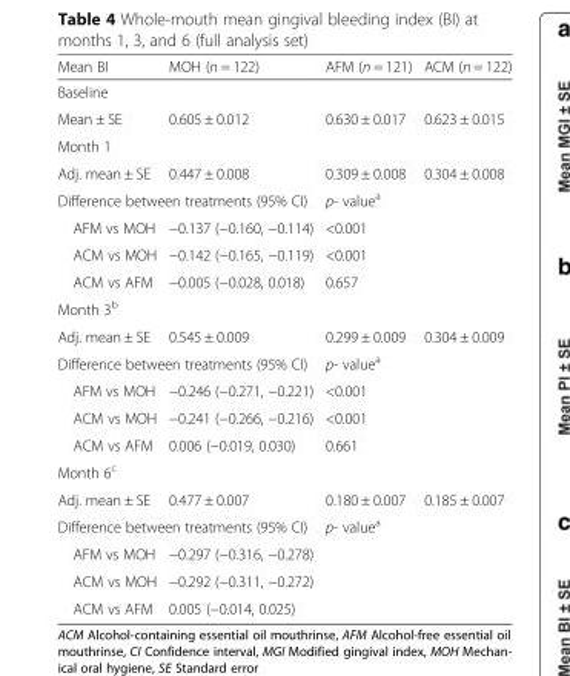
<table><thead><tr><td>Mean BI</td><td>MOH (n = 122)</td><td>AFM (n = 121)</td><td>ACM (n = 122)</td></tr></thead><tbody><tr><td colspan="4">Baseline</td></tr><tr><td>Mean ± SE</td><td>0.605 ± 0.012</td><td>0.630 ± 0.017</td><td>0.623 ± 0.015</td></tr><tr><td colspan="4">Month 1</td></tr><tr><td>Adj. mean ± SE</td><td>0.447 ± 0.008</td><td>0.309 ± 0.008</td><td>0.304 ± 0.008</td></tr><tr><td colspan="2">Difference between treatments (95% CI)</td><td colspan="2">p- value<sup>a</sup></td></tr><tr><td>AFM vs MOH</td><td>−0.137 (−0.160, −0.114)</td><td colspan="2">&lt;0.001</td></tr><tr><td>ACM vs MOH</td><td>−0.142 (−0.165, −0.119)</td><td colspan="2">&lt;0.001</td></tr><tr><td>ACM vs AFM</td><td>−0.005 (−0.028, 0.018)</td><td colspan="2">0.657</td></tr><tr><td colspan="4">Month 3<sup>b</sup></td></tr><tr><td>Adj. mean ± SE</td><td>0.545 ± 0.009</td><td>0.299 ± 0.009</td><td>0.304 ± 0.009</td></tr><tr><td colspan="2">Difference between treatments (95% CI)</td><td colspan="2">p- value<sup>a</sup></td></tr><tr><td>AFM vs MOH</td><td>−0.246 (−0.271, −0.221)</td><td colspan="2">&lt;0.001</td></tr><tr><td>ACM vs MOH</td><td>−0.241 (−0.266, −0.216)</td><td colspan="2">&lt;0.001</td></tr><tr><td>ACM vs AFM</td><td>0.006 (−0.019, 0.030)</td><td colspan="2">0.661</td></tr><tr><td colspan="4">Month 6<sup>c</sup></td></tr><tr><td>Adj. mean ± SE</td><td>0.477 ± 0.007</td><td>0.180 ± 0.007</td><td>0.185 ± 0.007</td></tr><tr><td colspan="2">Difference between treatments (95% CI)</td><td colspan="2">p- value<sup>a</sup></td></tr><tr><td>AFM vs MOH</td><td>−0.297 (−0.316, −0.278)</td><td colspan="2"></td></tr><tr><td>ACM vs MOH</td><td>−0.292 (−0.311, −0.272)</td><td colspan="2"></td></tr><tr><td>ACM vs AFM</td><td>0.005 (−0.014, 0.025)</td><td colspan="2"></td></tr></tbody></table>